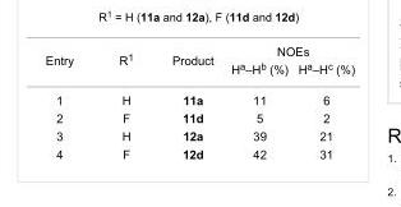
<table><tbody><tr><td rowspan="2">Entry</td><td rowspan="2">R<sup>1</sup></td><td rowspan="2">Product</td><td colspan="2">NOEs</td></tr><tr><td>H<sup>a</sup>–H<sup>b</sup> (%)</td><td>H<sup>a</sup>–H<sup>c</sup> (%)</td></tr><tr><td>1</td><td>H</td><td>11a</td><td>11</td><td>6</td></tr><tr><td>2</td><td>F</td><td>11d</td><td>5</td><td>2</td></tr><tr><td>3</td><td>H</td><td>12a</td><td>39</td><td>21</td></tr><tr><td>4</td><td>F</td><td>12d</td><td>42</td><td>31</td></tr></tbody></table>